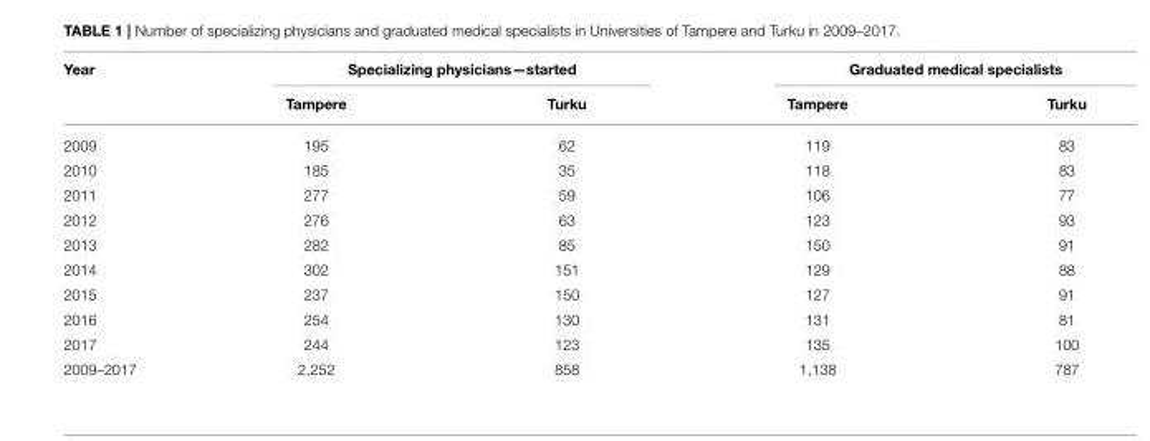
<table><thead><tr><td rowspan="2">Year</td><td colspan="2">Specializing physicians—started</td><td colspan="2">Graduated medical specialists</td></tr><tr><td>Tampere</td><td>Turku</td><td>Tampere</td><td>Turku</td></tr></thead><tbody><tr><td>2009</td><td>195</td><td>62</td><td>119</td><td>83</td></tr><tr><td>2010</td><td>185</td><td>35</td><td>118</td><td>83</td></tr><tr><td>2011</td><td>277</td><td>59</td><td>106</td><td>77</td></tr><tr><td>2012</td><td>276</td><td>63</td><td>123</td><td>93</td></tr><tr><td>2013</td><td>282</td><td>85</td><td>150</td><td>91</td></tr><tr><td>2014</td><td>302</td><td>151</td><td>129</td><td>88</td></tr><tr><td>2015</td><td>237</td><td>150</td><td>127</td><td>91</td></tr><tr><td>2016</td><td>254</td><td>130</td><td>131</td><td>81</td></tr><tr><td>2017</td><td>244</td><td>123</td><td>135</td><td>100</td></tr><tr><td>2009–2017</td><td>2,252</td><td>858</td><td>1,138</td><td>787</td></tr></tbody></table>